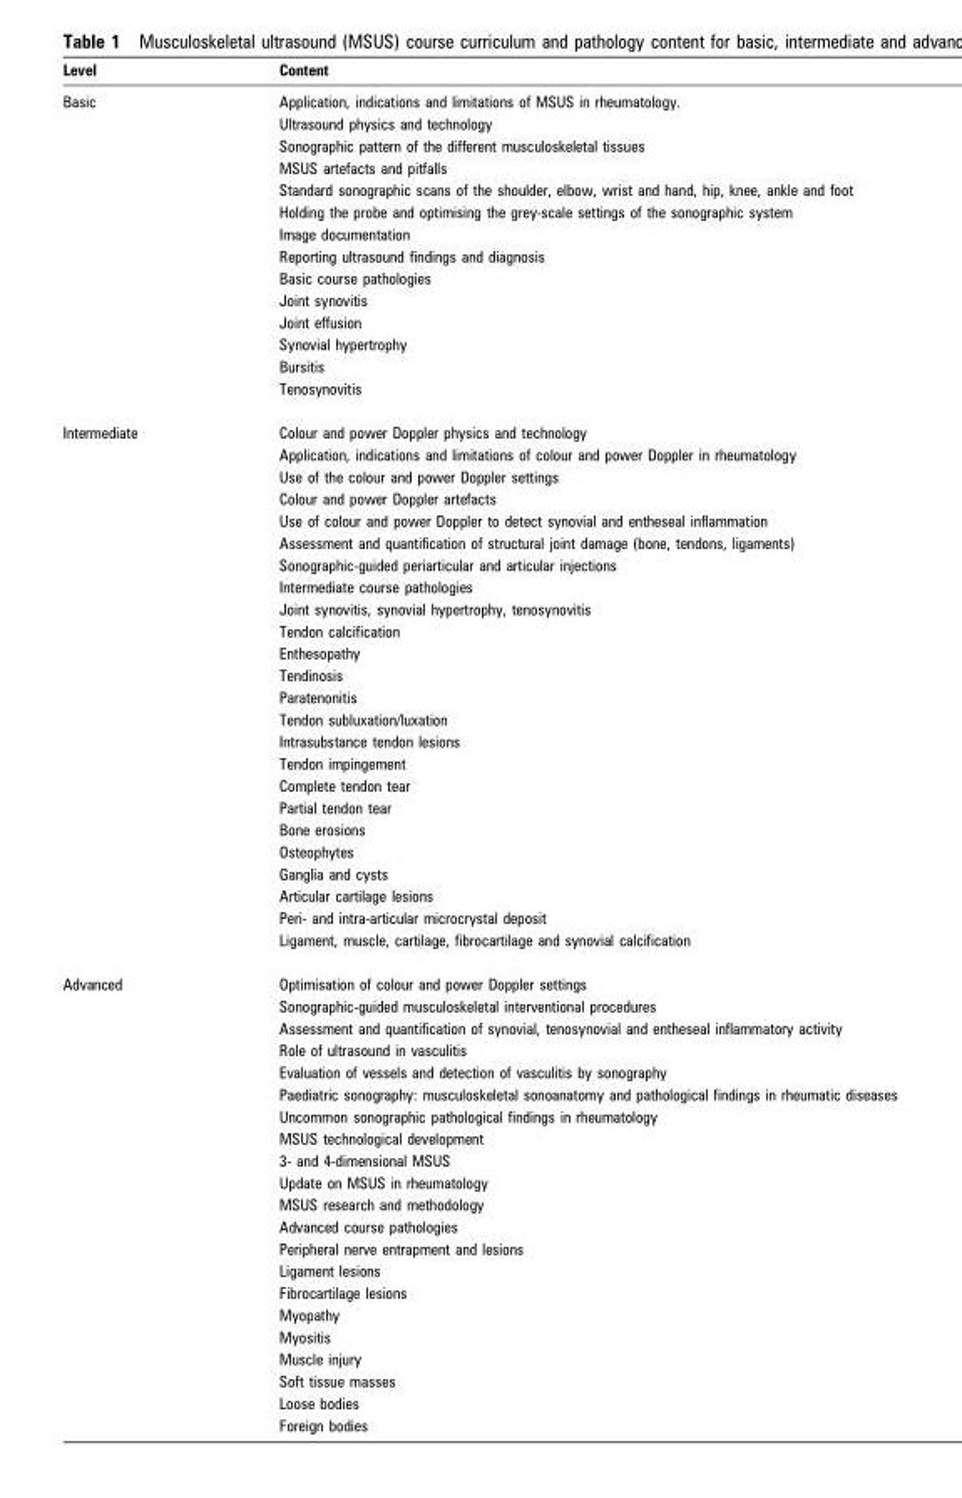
<table><thead><tr><td>Level</td><td>Content</td></tr></thead><tbody><tr><td rowspan="14">Basic</td><td>Application, indications and limitations of MSUS in rheumatology.</td></tr><tr><td>Ultrasound physics and technology</td></tr><tr><td>Sonographic pattern of the different musculoskeletal tissues</td></tr><tr><td>MSUS artefacts and pitfalls</td></tr><tr><td>Standard sonographic scans of the shoulder, elbow, wrist and hand, hip, knee, ankle and foot</td></tr><tr><td>Holding the probe and optimising the grey-scale settings of the sonographic system</td></tr><tr><td>Image documentation</td></tr><tr><td>Reporting ultrasound findings and diagnosis</td></tr><tr><td>Basic course pathologies</td></tr><tr><td>Joint synovitis</td></tr><tr><td>Joint effusion</td></tr><tr><td>Synovial hypertrophy</td></tr><tr><td>Bursitis</td></tr><tr><td>Tenosynovitis</td></tr><tr><td rowspan="24">Intermediate</td><td>Colour and power Doppler physics and technology</td></tr><tr><td>Application, indications and limitations of colour and power Doppler in rheumatology</td></tr><tr><td>Use of the colour and power Doppler settings</td></tr><tr><td>Colour and power Doppler artefacts</td></tr><tr><td>Use of colour and power Doppler to detect synovial and entheseal inflammation</td></tr><tr><td>Assessment and quantification of structural joint damage (bone, tendons, ligaments)</td></tr><tr><td>Sonographic-guided periarticular and articular injections</td></tr><tr><td>Intermediate course pathologies</td></tr><tr><td>Joint synovitis, synovial hypertrophy, tenosynovitis</td></tr><tr><td>Tendon calcification</td></tr><tr><td>Enthesopathy</td></tr><tr><td>Tendinosis</td></tr><tr><td>Paratenonitis</td></tr><tr><td>Tendon subluxation/luxation</td></tr><tr><td>Intrasubstance tendon lesions</td></tr><tr><td>Tendon impingement</td></tr><tr><td>Complete tendon tear</td></tr><tr><td>Partial tendon tear</td></tr><tr><td>Bone erosions</td></tr><tr><td>Osteophytes</td></tr><tr><td>Ganglia and cysts</td></tr><tr><td>Articular cartilage lesions</td></tr><tr><td>Peri- and intra-articular microcrystal deposit</td></tr><tr><td>Ligament, muscle, cartilage, fibrocartilage and synovial calcification</td></tr><tr><td rowspan="21">Advanced</td><td>Optimisation of colour and power Doppler settings</td></tr><tr><td>Sonographic-guided musculoskeletal interventional procedures</td></tr><tr><td>Assessment and quantification of synovial, tenosynovial and entheseal inflammatory activity</td></tr><tr><td>Role of ultrasound in vasculitis</td></tr><tr><td>Evaluation of vessels and detection of vasculitis by sonography</td></tr><tr><td>Paediatric sonography: musculoskeletal sonoanatomy and pathological findings in rheumatic diseases</td></tr><tr><td>Uncommon sonographic pathological findings in rheumatology</td></tr><tr><td>MSUS technological development</td></tr><tr><td>3- and 4-dimensional MSUS</td></tr><tr><td>Update on MSUS in rheumatology</td></tr><tr><td>MSUS research and methodology</td></tr><tr><td>Advanced course pathologies</td></tr><tr><td>Peripheral nerve entrapment and lesions</td></tr><tr><td>Ligament lesions</td></tr><tr><td>Fibrocartilage lesions</td></tr><tr><td>Myopathy</td></tr><tr><td>Myositis</td></tr><tr><td>Muscle injury</td></tr><tr><td>Soft tissue masses</td></tr><tr><td>Loose bodies</td></tr><tr><td>Foreign bodies</td></tr></tbody></table>